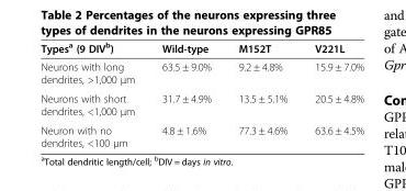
<table><thead><tr><td>Types<sup>a</sup> (9 DIV<sup>b</sup>)</td><td>Wild-type</td><td>M152T</td><td>V221L</td></tr></thead><tbody><tr><td>Neurons with long dendrites, &gt;1,000 μm</td><td>63.5 ± 9.0%</td><td>9.2 ± 4.8%</td><td>15.9 ± 7.0%</td></tr><tr><td>Neurons with short dendrites, &lt;1,000 μm</td><td>31.7 ± 4.9%</td><td>13.5 ± 5.1%</td><td>20.5 ± 4.8%</td></tr><tr><td>Neuron with no dendrites, &lt;100 μm</td><td>4.8 ± 1.6%</td><td>77.3 ± 4.6%</td><td>63.6 ± 4.5%</td></tr></tbody></table>